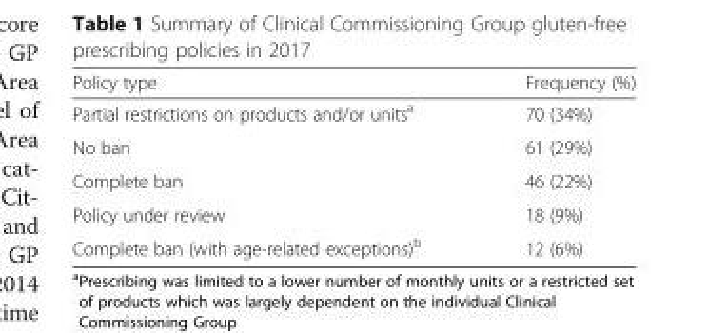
<table><thead><tr><td>Policy type</td><td>Frequency (%)</td></tr></thead><tbody><tr><td>Partial restrictions on products and/or units<sup>a</sup></td><td>70 (34%)</td></tr><tr><td>No ban</td><td>61 (29%)</td></tr><tr><td>Complete ban</td><td>46 (22%)</td></tr><tr><td>Policy under review</td><td>18 (9%)</td></tr><tr><td>Complete ban (with age-related exceptions)<sup>b</sup></td><td>12 (6%)</td></tr></tbody></table>